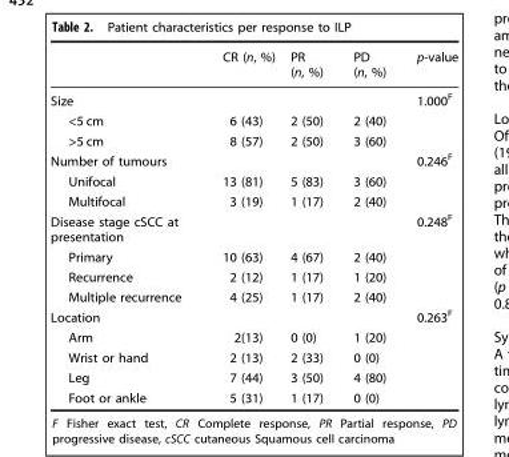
<table><thead><tr><td></td><td>CR (n, %)</td><td>PR (n, %)</td><td>PD (n, %)</td><td>p-value</td></tr></thead><tbody><tr><td>Size</td><td></td><td></td><td></td><td>1.000<sup>F</sup></td></tr><tr><td>&lt;5 cm</td><td>6 (43)</td><td>2 (50)</td><td>2 (40)</td><td></td></tr><tr><td>&gt;5 cm</td><td>8 (57)</td><td>2 (50)</td><td>3 (60)</td><td></td></tr><tr><td>Number of tumours</td><td></td><td></td><td></td><td>0.246<sup>F</sup></td></tr><tr><td>Unifocal</td><td>13 (81)</td><td>5 (83)</td><td>3 (60)</td><td></td></tr><tr><td>Multifocal</td><td>3 (19)</td><td>1 (17)</td><td>2 (40)</td><td></td></tr><tr><td>Disease stage cSCC at presentation</td><td></td><td></td><td></td><td>0.248<sup>F</sup></td></tr><tr><td>Primary</td><td>10 (63)</td><td>4 (67)</td><td>2 (40)</td><td></td></tr><tr><td>Recurrence</td><td>2 (12)</td><td>1 (17)</td><td>1 (20)</td><td></td></tr><tr><td>Multiple recurrence</td><td>4 (25)</td><td>1 (17)</td><td>2 (40)</td><td></td></tr><tr><td>Location</td><td></td><td></td><td></td><td>0.263<sup>F</sup></td></tr><tr><td>Arm</td><td>2(13)</td><td>0 (0)</td><td>1 (20)</td><td></td></tr><tr><td>Wrist or hand</td><td>2 (13)</td><td>2 (33)</td><td>0 (0)</td><td></td></tr><tr><td>Leg</td><td>7 (44)</td><td>3 (50)</td><td>4 (80)</td><td></td></tr><tr><td>Foot or ankle</td><td>5 (31)</td><td>1 (17)</td><td>0 (0)</td><td></td></tr></tbody></table>